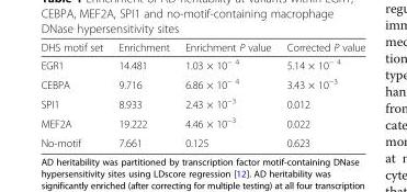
<table><thead><tr><td>DHS motif set</td><td>Enrichment</td><td>Enrichment P value</td><td>Corrected P value</td></tr></thead><tbody><tr><td>EGR1</td><td>14.481</td><td>1.03 × 10<sup>− 4</sup></td><td>5.14 × 10<sup>− 4</sup></td></tr><tr><td>CEBPA</td><td>9.716</td><td>6.86 × 10<sup>− 4</sup></td><td>3.43 × 10<sup>−3</sup></td></tr><tr><td>SPI1</td><td>8.933</td><td>2.43 × 10<sup>−3</sup></td><td>0.012</td></tr><tr><td>MEF2A</td><td>19.222</td><td>4.46 × 10<sup>−3</sup></td><td>0.022</td></tr><tr><td>No-motif</td><td>7.661</td><td>0.125</td><td>0.623</td></tr></tbody></table>